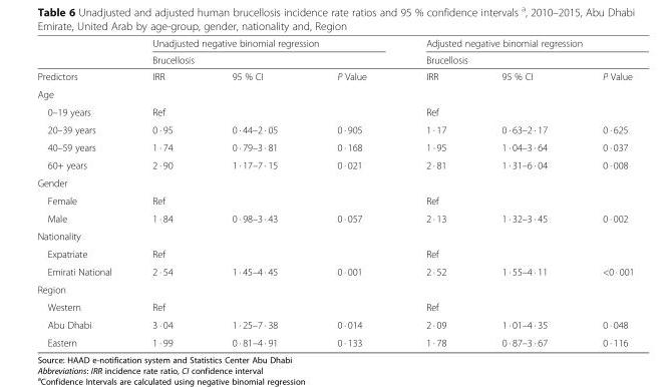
<table><thead><tr><td rowspan="3">Predictors</td><td rowspan="2" colspan="3">Unadjusted negative binomial regression Brucellosis</td><td rowspan="2" colspan="3">Adjusted negative binomial regression Brucellosis</td></tr><tr></tr><tr><td>IRR</td><td>95 % CI</td><td>P Value</td><td>IRR</td><td>95 % CI</td><td>P Value</td></tr></thead><tbody><tr><td colspan="7">Age</td></tr><tr><td>0–19 years</td><td>Ref</td><td></td><td></td><td>Ref</td><td></td><td></td></tr><tr><td>20–39 years</td><td>0 · 95</td><td>0 · 44–2 · 05</td><td>0 · 905</td><td>1 · 17</td><td>0 · 63–2 · 17</td><td>0 · 625</td></tr><tr><td>40–59 years</td><td>1 · 74</td><td>0 · 79–3 · 81</td><td>0 · 168</td><td>1 · 95</td><td>1 · 04–3 · 64</td><td>0 · 037</td></tr><tr><td>60+ years</td><td>2 · 90</td><td>1 · 17–7 · 15</td><td>0 · 021</td><td>2 · 81</td><td>1 · 31–6 · 04</td><td>0 · 008</td></tr><tr><td colspan="7">Gender</td></tr><tr><td>Female</td><td>Ref</td><td></td><td></td><td>Ref</td><td></td><td></td></tr><tr><td>Male</td><td>1 · 84</td><td>0 · 98–3 · 43</td><td>0 · 057</td><td>2 · 13</td><td>1 · 32–3 · 45</td><td>0 · 002</td></tr><tr><td colspan="7">Nationality</td></tr><tr><td>Expatriate</td><td>Ref</td><td></td><td></td><td>Ref</td><td></td><td></td></tr><tr><td>Emirati National</td><td>2 · 54</td><td>1 · 45–4 · 45</td><td>0 · 001</td><td>2 · 52</td><td>1 · 55–4 · 11</td><td>&lt;0 · 001</td></tr><tr><td colspan="7">Region</td></tr><tr><td>Western</td><td>Ref</td><td></td><td></td><td>Ref</td><td></td><td></td></tr><tr><td>Abu Dhabi</td><td>3 · 04</td><td>1 · 25–7 · 38</td><td>0 · 014</td><td>2 · 09</td><td>1 · 01–4 · 35</td><td>0 · 048</td></tr><tr><td>Eastern</td><td>1 · 99</td><td>0 · 81–4 · 91</td><td>0 · 133</td><td>1 · 78</td><td>0 · 87–3 · 67</td><td>0 · 116</td></tr></tbody></table>